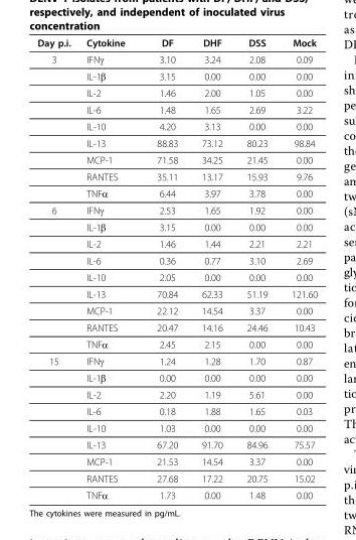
<table><thead><tr><td>Day p.i.</td><td>Cytokine</td><td>DF</td><td>DHF</td><td>DSS</td><td>Mock</td></tr></thead><tbody><tr><td rowspan="9">3</td><td>IFNγ</td><td>3.10</td><td>3.24</td><td>2.08</td><td>0.09</td></tr><tr><td>IL-1β</td><td>3.15</td><td>0.00</td><td>0.00</td><td>0.00</td></tr><tr><td>IL-2</td><td>1.46</td><td>2.00</td><td>1.05</td><td>0.00</td></tr><tr><td>IL-6</td><td>1.48</td><td>1.65</td><td>2.69</td><td>3.22</td></tr><tr><td>IL-10</td><td>4.20</td><td>3.13</td><td>0.00</td><td>0.00</td></tr><tr><td>IL-13</td><td>88.83</td><td>73.12</td><td>80.23</td><td>98.84</td></tr><tr><td>MCP-1</td><td>71.58</td><td>34.25</td><td>21.45</td><td>0.00</td></tr><tr><td>RANTES</td><td>35.11</td><td>13.17</td><td>15.93</td><td>9.76</td></tr><tr><td>TNFα</td><td>6.44</td><td>3.97</td><td>3.78</td><td>0.00</td></tr><tr><td rowspan="9">6</td><td>IFNγ</td><td>2.53</td><td>1.65</td><td>1.92</td><td>0.00</td></tr><tr><td>IL-1β</td><td>3.15</td><td>0.00</td><td>0.00</td><td>0.00</td></tr><tr><td>IL-2</td><td>1.46</td><td>1.44</td><td>2.21</td><td>2.21</td></tr><tr><td>IL-6</td><td>0.36</td><td>0.77</td><td>3.10</td><td>2.69</td></tr><tr><td>IL-10</td><td>2.05</td><td>0.00</td><td>0.00</td><td>0.00</td></tr><tr><td>IL-13</td><td>70.84</td><td>62.33</td><td>51.19</td><td>121.60</td></tr><tr><td>MCP-1</td><td>22.12</td><td>14.54</td><td>3.37</td><td>0.00</td></tr><tr><td>RANTES</td><td>20.47</td><td>14.16</td><td>24.46</td><td>10.43</td></tr><tr><td>TNFα</td><td>2.45</td><td>2.15</td><td>0.00</td><td>0.00</td></tr><tr><td rowspan="9">15</td><td>IFNγ</td><td>1.24</td><td>1.28</td><td>1.70</td><td>0.87</td></tr><tr><td>IL-1β</td><td>0.00</td><td>0.00</td><td>0.00</td><td>0.00</td></tr><tr><td>IL-2</td><td>2.20</td><td>1.19</td><td>5.61</td><td>0.00</td></tr><tr><td>IL-6</td><td>0.18</td><td>1.88</td><td>1.65</td><td>0.03</td></tr><tr><td>IL-10</td><td>1.03</td><td>0.00</td><td>0.00</td><td>0.00</td></tr><tr><td>IL-13</td><td>67.20</td><td>91.70</td><td>84.96</td><td>75.57</td></tr><tr><td>MCP-1</td><td>21.53</td><td>14.54</td><td>3.37</td><td>0.00</td></tr><tr><td>RANTES</td><td>27.68</td><td>17.22</td><td>20.75</td><td>15.02</td></tr><tr><td>TNFα</td><td>1.73</td><td>0.00</td><td>1.48</td><td>0.00</td></tr></tbody></table>